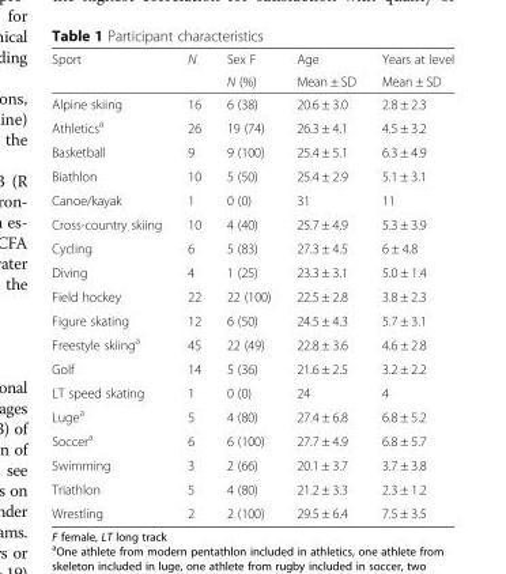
<table><thead><tr><td rowspan="2">Sport</td><td rowspan="2">N</td><td rowspan="2">Sex F N (%)</td><td rowspan="2">Age Mean ± SD</td><td rowspan="2">Years at level Mean ± SD</td></tr><tr></tr></thead><tbody><tr><td>Alpine skiing</td><td>16</td><td>6 (38)</td><td>20.6 ± 3.0</td><td>2.8 ± 2.3</td></tr><tr><td>Athletics<sup>a</sup></td><td>26</td><td>19 (74)</td><td>26.3 ± 4.1</td><td>4.5 ± 3.2</td></tr><tr><td>Basketball</td><td>9</td><td>9 (100)</td><td>25.4 ± 5.1</td><td>6.3 ± 4.9</td></tr><tr><td>Biathlon</td><td>10</td><td>5 (50)</td><td>25.4 ± 2.9</td><td>5.1 ± 3.1</td></tr><tr><td>Canoe/kayak</td><td>1</td><td>0 (0)</td><td>31</td><td>11</td></tr><tr><td>Cross-country skiing</td><td>10</td><td>4 (40)</td><td>25.7 ± 4.9</td><td>5.3 ± 3.9</td></tr><tr><td>Cycling</td><td>6</td><td>5 (83)</td><td>27.3 ± 4.5</td><td>6 ± 4.8</td></tr><tr><td>Diving</td><td>4</td><td>1 (25)</td><td>23.3 ± 3.1</td><td>5.0 ± 1.4</td></tr><tr><td>Field hockey</td><td>22</td><td>22 (100)</td><td>22.5 ± 2.8</td><td>3.8 ± 2.3</td></tr><tr><td>Figure skating</td><td>12</td><td>6 (50)</td><td>24.5 ± 4.3</td><td>5.7 ± 3.1</td></tr><tr><td>Freestyle skiing<sup>a</sup></td><td>45</td><td>22 (49)</td><td>22.8 ± 3.6</td><td>4.6 ± 2.8</td></tr><tr><td>Golf</td><td>14</td><td>5 (36)</td><td>21.6 ± 2.5</td><td>3.2 ± 2.2</td></tr><tr><td>LT speed skating</td><td>1</td><td>0 (0)</td><td>24</td><td>4</td></tr><tr><td>Luge<sup>a</sup></td><td>5</td><td>4 (80)</td><td>27.4 ± 6.8</td><td>6.8 ± 5.2</td></tr><tr><td>Soccer<sup>a</sup></td><td>6</td><td>6 (100)</td><td>27.7 ± 4.9</td><td>6.8 ± 5.7</td></tr><tr><td>Swimming</td><td>3</td><td>2 (66)</td><td>20.1 ± 3.7</td><td>3.7 ± 3.8</td></tr><tr><td>Triathlon</td><td>5</td><td>4 (80)</td><td>21.2 ± 3.3</td><td>2.3 ± 1.2</td></tr><tr><td>Wrestling</td><td>2</td><td>2 (100)</td><td>29.5 ± 6.4</td><td>7.5 ± 3.5</td></tr></tbody></table>